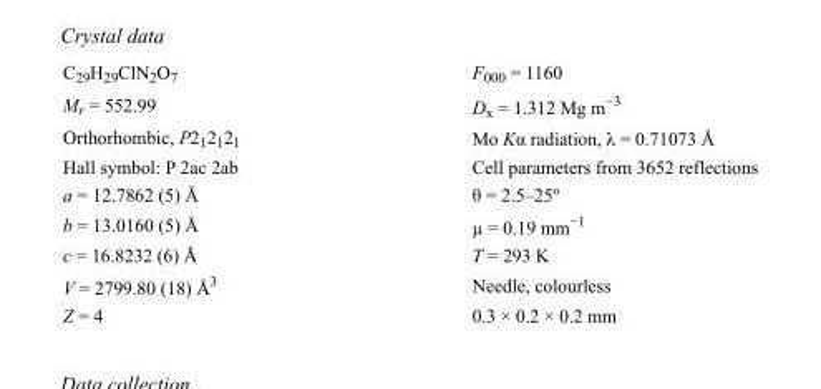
<table><tbody><tr><td>C<sub>29</sub>H<sub>29</sub>ClN<sub>2</sub>O<sub>7</sub></td><td>F000 = 1160</td></tr><tr><td>M<sub>r</sub> = 552.99</td><td>D<sub>x</sub> = 1.312 Mg m<sup>−3</sup></td></tr><tr><td>Orthorhombic, P2<sub>1</sub>2<sub>1</sub>2<sub>1</sub></td><td>Mo Kα radiation, λ = 0.71073 Å</td></tr><tr><td>Hall symbol: P 2ac 2ab</td><td>Cell parameters from 3652 reflections</td></tr><tr><td>a = 12.7862 (5) Å</td><td>θ = 2.5–25º</td></tr><tr><td>b = 13.0160 (5) Å</td><td>µ = 0.19 mm<sup>−1</sup></td></tr><tr><td>c = 16.8232 (6) Å</td><td>T = 293 K</td></tr><tr><td>V = 2799.80 (18) Å<sup>3</sup></td><td>Needle, colourless</td></tr><tr><td>Z = 4</td><td>0.3 × 0.2 × 0.2 mm</td></tr></tbody></table>